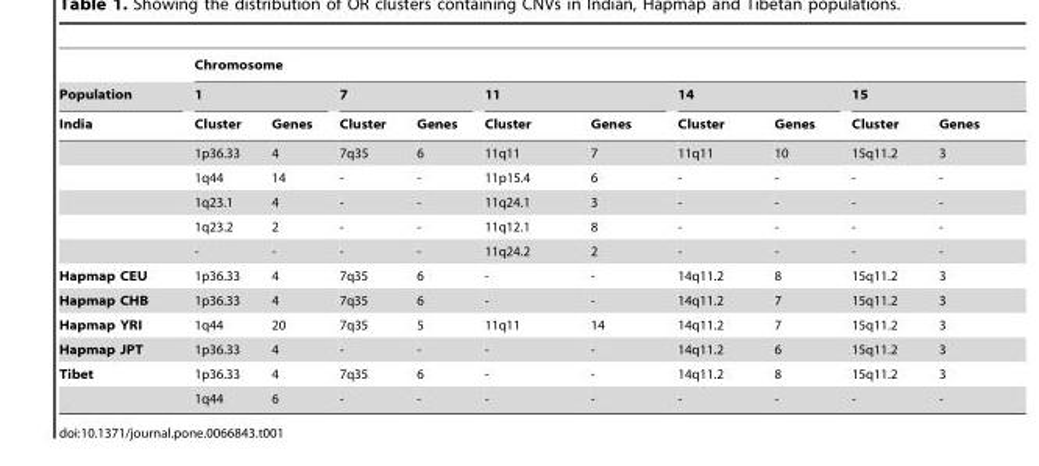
<table><thead><tr><td rowspan="3">Population India</td><td colspan="10">Chromosome</td></tr><tr><td colspan="2">1</td><td colspan="2">7</td><td colspan="2">11</td><td colspan="2">14</td><td colspan="2">15</td></tr><tr><td>Cluster</td><td>Genes</td><td>Cluster</td><td>Genes</td><td>Cluster</td><td>Genes</td><td>Cluster</td><td>Genes</td><td>Cluster</td><td>Genes</td></tr></thead><tbody><tr><td></td><td>1p36.33</td><td>4</td><td>7q35</td><td>6</td><td>11q11</td><td>7</td><td>11q11</td><td>10</td><td>15q11.2</td><td>3</td></tr><tr><td></td><td>1q44</td><td>14</td><td>-</td><td>-</td><td>11p15.4</td><td>6</td><td>-</td><td>-</td><td>-</td><td>-</td></tr><tr><td></td><td>1q23.1</td><td>4</td><td>-</td><td>-</td><td>11q24.1</td><td>3</td><td>-</td><td>-</td><td>-</td><td>-</td></tr><tr><td></td><td>1q23.2</td><td>2</td><td>-</td><td>-</td><td>11q12.1</td><td>8</td><td>-</td><td>-</td><td>-</td><td>-</td></tr><tr><td></td><td>-</td><td>-</td><td>-</td><td>-</td><td>11q24.2</td><td>2</td><td>-</td><td>-</td><td>-</td><td>-</td></tr><tr><td>Hapmap CEU</td><td>1p36.33</td><td>4</td><td>7q35</td><td>6</td><td>-</td><td>-</td><td>14q11.2</td><td>8</td><td>15q11.2</td><td>3</td></tr><tr><td>Hapmap CHB</td><td>1p36.33</td><td>4</td><td>7q35</td><td>6</td><td>-</td><td>-</td><td>14q11.2</td><td>7</td><td>15q11.2</td><td>3</td></tr><tr><td>Hapmap YRI</td><td>1q44</td><td>20</td><td>7q35</td><td>5</td><td>11q11</td><td>14</td><td>14q11.2</td><td>7</td><td>15q11.2</td><td>3</td></tr><tr><td>Hapmap JPT</td><td>1p36.33</td><td>4</td><td>-</td><td>-</td><td>-</td><td>-</td><td>14q11.2</td><td>6</td><td>15q11.2</td><td>3</td></tr><tr><td rowspan="2">Tibet</td><td>1p36.33</td><td>4</td><td>7q35</td><td>6</td><td>-</td><td>-</td><td>14q11.2</td><td>8</td><td>15q11.2</td><td>3</td></tr><tr><td>1q44</td><td>6</td><td>-</td><td>-</td><td>-</td><td>-</td><td>-</td><td>-</td><td>-</td><td>-</td></tr></tbody></table>